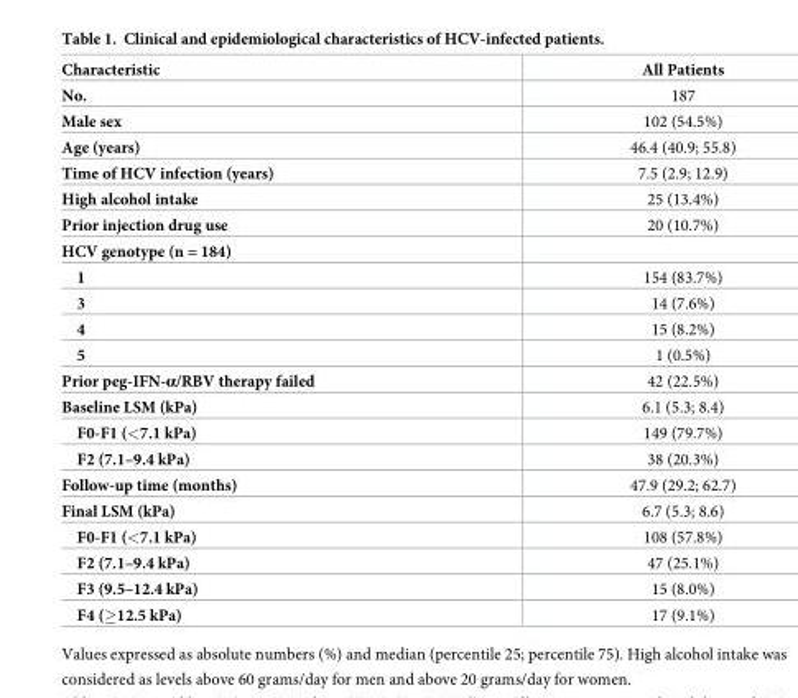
<table><thead><tr><td>Characteristic</td><td>All Patients</td></tr></thead><tbody><tr><td>No.</td><td>187</td></tr><tr><td>Male sex</td><td>102 (54.5%)</td></tr><tr><td>Age (years)</td><td>46.4 (40.9; 55.8)</td></tr><tr><td>Time of HCV infection (years)</td><td>7.5 (2.9; 12.9)</td></tr><tr><td>High alcohol intake</td><td>25 (13.4%)</td></tr><tr><td>Prior injection drug use</td><td>20 (10.7%)</td></tr><tr><td colspan="2">HCV genotype (n = 184)</td></tr><tr><td>1</td><td>154 (83.7%)</td></tr><tr><td>3</td><td>14 (7.6%)</td></tr><tr><td>4</td><td>15 (8.2%)</td></tr><tr><td>5</td><td>1 (0.5%)</td></tr><tr><td>Prior peg-IFN-α/RBV therapy failed</td><td>42 (22.5%)</td></tr><tr><td>Baseline LSM (kPa)</td><td>6.1 (5.3; 8.4)</td></tr><tr><td>F0-F1 (&lt;7.1 kPa)</td><td>149 (79.7%)</td></tr><tr><td>F2 (7.1–9.4 kPa)</td><td>38 (20.3%)</td></tr><tr><td>Follow-up time (months)</td><td>47.9 (29.2; 62.7)</td></tr><tr><td>Final LSM (kPa)</td><td>6.7 (5.3; 8.6)</td></tr><tr><td>F0-F1 (&lt;7.1 kPa)</td><td>108 (57.8%)</td></tr><tr><td>F2 (7.1–9.4 kPa)</td><td>47 (25.1%)</td></tr><tr><td>F3 (9.5–12.4 kPa)</td><td>15 (8.0%)</td></tr><tr><td>F4 (≥12.5 kPa)</td><td>17 (9.1%)</td></tr></tbody></table>